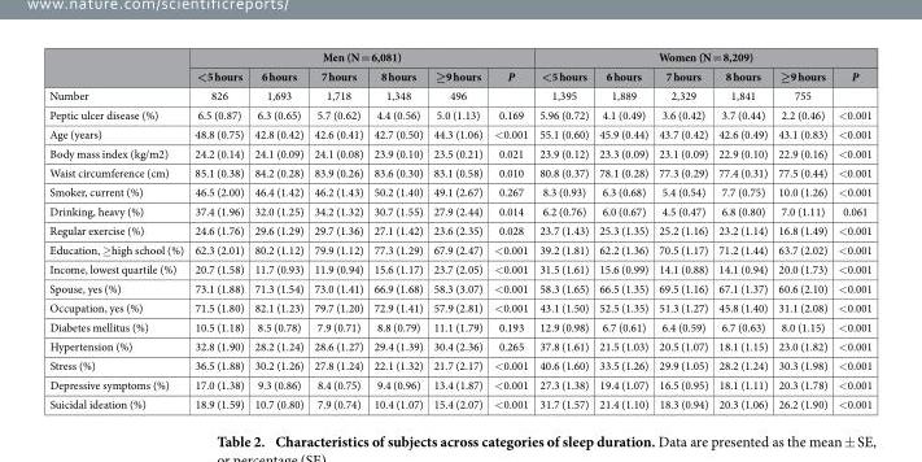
<table><thead><tr><td rowspan="2"></td><td colspan="6">Men (N = 6,081)</td><td colspan="6">Women (N = 8,209)</td></tr><tr><td>&lt;5 hours</td><td>6 hours</td><td>7 hours</td><td>8 hours</td><td>≥9 hours</td><td>P</td><td>&lt;5 hours</td><td>6 hours</td><td>7 hours</td><td>8 hours</td><td>≥9 hours</td><td>P</td></tr></thead><tbody><tr><td>Number</td><td>826</td><td>1,693</td><td>1,718</td><td>1,348</td><td>496</td><td></td><td>1,395</td><td>1,889</td><td>2,329</td><td>1,841</td><td>755</td><td></td></tr><tr><td>Peptic ulcer disease (%)</td><td>6.5 (0.87)</td><td>6.3 (0.65)</td><td>5.7 (0.62)</td><td>4.4 (0.56)</td><td>5.0 (1.13)</td><td>0.169</td><td>5.96 (0.72)</td><td>4.1 (0.49)</td><td>3.6 (0.42)</td><td>3.7 (0.44)</td><td>2.2 (0.46)</td><td>&lt; 0.001</td></tr><tr><td>Age (years)</td><td>48.8 (0.75)</td><td>42.8 (0.42)</td><td>42.6 (0.41)</td><td>42.7 (0.50)</td><td>44.3 (1.06)</td><td>&lt; 0.001</td><td>55.1 (0.60)</td><td>45.9 (0.44)</td><td>43.7 (0.42)</td><td>42.6 (0.49)</td><td>43.1 (0.83)</td><td>&lt; 0.001</td></tr><tr><td>Body mass index (kg/m2)</td><td>24.2 (0.14)</td><td>24.1 (0.09)</td><td>24.1 (0.08)</td><td>23.9 (0.10)</td><td>23.5 (0.21)</td><td>0.021</td><td>23.9 (0.12)</td><td>23.3 (0.09)</td><td>23.1 (0.09)</td><td>22.9 (0.10)</td><td>22.9 (0.16)</td><td>&lt; 0.001</td></tr><tr><td>Waist circumference (cm)</td><td>85.1 (0.38)</td><td>84.2 (0.28)</td><td>83.9 (0.26)</td><td>83.6 (0.30)</td><td>83.1 (0.58)</td><td>0.010</td><td>80.8 (0.37)</td><td>78.1 (0.28)</td><td>77.3 (0.29)</td><td>77.4 (0.31)</td><td>77.5 (0.44)</td><td>&lt; 0.001</td></tr><tr><td>Smoker, current (%)</td><td>46.5 (2.00)</td><td>46.4 (1.42)</td><td>46.2 (1.43)</td><td>50.2 (1.40)</td><td>49.1 (2.67)</td><td>0.267</td><td>8.3 (0.93)</td><td>6.3 (0.68)</td><td>5.4 (0.54)</td><td>7.7 (0.75)</td><td>10.0 (1.26)</td><td>&lt; 0.001</td></tr><tr><td>Drinking, heavy (%)</td><td>37.4 (1.96)</td><td>32.0 (1.25)</td><td>34.2 (1.32)</td><td>30.7 (1.55)</td><td>27.9 (2.44)</td><td>0.014</td><td>6.2 (0.76)</td><td>6.0 (0.67)</td><td>4.5 (0.47)</td><td>6.8 (0.80)</td><td>7.0 (1.11)</td><td>0.061</td></tr><tr><td>Regular exercise (%)</td><td>24.6 (1.76)</td><td>29.6 (1.29)</td><td>29.7 (1.36)</td><td>27.1 (1.42)</td><td>23.6 (2.35)</td><td>0.028</td><td>23.7 (1.43)</td><td>25.3 (1.35)</td><td>25.2 (1.16)</td><td>23.2 (1.14)</td><td>16.8 (1.49)</td><td>&lt; 0.001</td></tr><tr><td>Education, ≥ high school (%)</td><td>62.3 (2.01)</td><td>80.2 (1.12)</td><td>79.9 (1.12)</td><td>77.3 (1.29)</td><td>67.9 (2.47)</td><td>&lt; 0.001</td><td>39.2 (1.81)</td><td>62.2 (1.36)</td><td>70.5 (1.17)</td><td>71.2 (1.44)</td><td>63.7 (2.02)</td><td>&lt; 0.001</td></tr><tr><td>Income, lowest quartile (%)</td><td>20.7 (1.58)</td><td>11.7 (0.93)</td><td>11.9 (0.94)</td><td>15.6 (1.17)</td><td>23.7 (2.05)</td><td>&lt; 0.001</td><td>31.5 (1.61)</td><td>15.6 (0.99)</td><td>14.1 (0.88)</td><td>14.1 (0.94)</td><td>20.0 (1.73)</td><td>&lt; 0.001</td></tr><tr><td>Spouse, yes (%)</td><td>73.1 (1.88)</td><td>71.3 (1.54)</td><td>73.0 (1.41)</td><td>66.9 (1.68)</td><td>58.3 (3.07)</td><td>&lt; 0.001</td><td>58.3 (1.65)</td><td>66.5 (1.35)</td><td>69.5 (1.16)</td><td>67.1 (1.37)</td><td>60.6 (2.10)</td><td>&lt; 0.001</td></tr><tr><td>Occupation, yes (%)</td><td>71.5 (1.80)</td><td>82.1 (1.23)</td><td>79.7 (1.20)</td><td>72.9 (1.41)</td><td>57.9 (2.81)</td><td>&lt; 0.001</td><td>43.1 (1.50)</td><td>52.5 (1.35)</td><td>51.3 (1.27)</td><td>45.8 (1.40)</td><td>31.1 (2.08)</td><td>&lt; 0.001</td></tr><tr><td>Diabetes mellitus (%)</td><td>10.5 (1.18)</td><td>8.5 (0.78)</td><td>7.9 (0.71)</td><td>8.8 (0.79)</td><td>11.1 (1.79)</td><td>0.193</td><td>12.9 (0.98)</td><td>6.7 (0.61)</td><td>6.4 (0.59)</td><td>6.7 (0.63)</td><td>8.0 (1.15)</td><td>&lt; 0.001</td></tr><tr><td>Hypertension (%)</td><td>32.8 (1.90)</td><td>28.2 (1.24)</td><td>28.6 (1.27)</td><td>29.4 (1.39)</td><td>30.4 (2.36)</td><td>0.265</td><td>37.8 (1.61)</td><td>21.5 (1.03)</td><td>20.5 (1.07)</td><td>18.1 (1.15)</td><td>23.0 (1.82)</td><td>&lt; 0.001</td></tr><tr><td>Stress (%)</td><td>36.5 (1.88)</td><td>30.2 (1.26)</td><td>27.8 (1.24)</td><td>22.1 (1.32)</td><td>21.7 (2.17)</td><td>&lt; 0.001</td><td>40.6 (1.60)</td><td>33.5 (1.26)</td><td>29.9 (1.05)</td><td>28.2 (1.24)</td><td>30.3 (1.98)</td><td>&lt; 0.001</td></tr><tr><td>Depressive symptoms (%)</td><td>17.0 (1.38)</td><td>9.3 (0.86)</td><td>8.4 (0.75)</td><td>9.4 (0.96)</td><td>13.4 (1.87)</td><td>&lt; 0.001</td><td>27.3 (1.38)</td><td>19.4 (1.07)</td><td>16.5 (0.95)</td><td>18.1 (1.11)</td><td>20.3 (1.78)</td><td>&lt; 0.001</td></tr><tr><td>Suicidal ideation (%)</td><td>18.9 (1.59)</td><td>10.7 (0.80)</td><td>7.9 (0.74)</td><td>10.4 (1.07)</td><td>15.4 (2.07)</td><td>&lt; 0.001</td><td>31.7 (1.57)</td><td>21.4 (1.10)</td><td>18.3 (0.94)</td><td>20.3 (1.06)</td><td>26.2 (1.90)</td><td>&lt; 0.001</td></tr></tbody></table>